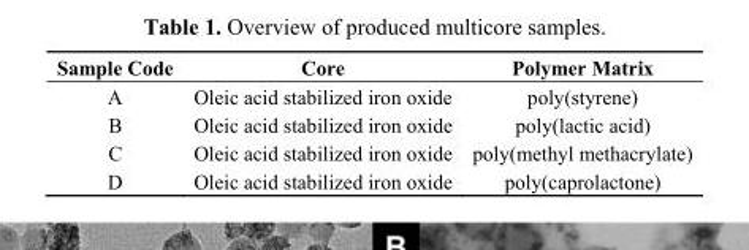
<table><thead><tr><td>Sample Code</td><td>Core</td><td>Polymer Matrix</td></tr></thead><tbody><tr><td>A</td><td>Oleic acid stabilized iron oxide</td><td>poly(styrene)</td></tr><tr><td>B</td><td>Oleic acid stabilized iron oxide</td><td>poly(lactic acid)</td></tr><tr><td>C</td><td>Oleic acid stabilized iron oxide</td><td>poly(methyl methacrylate)</td></tr><tr><td>D</td><td>Oleic acid stabilized iron oxide</td><td>poly(caprolactone)</td></tr></tbody></table>